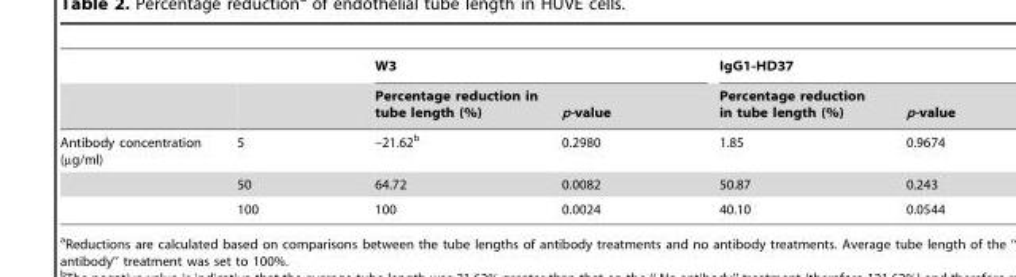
<table><thead><tr><td rowspan="2"></td><td rowspan="2"></td><td colspan="2">W3</td><td colspan="2">IgG1-HD37</td></tr><tr><td>Percentage reduction in tube length (%)</td><td>p-value</td><td>Percentage reduction in tube length (%)</td><td>p-value</td></tr></thead><tbody><tr><td rowspan="3">Antibody concentration (µg/ml)</td><td>5</td><td>–21.62<sup>b</sup></td><td>0.2980</td><td>1.85</td><td>0.9674</td></tr><tr><td>50</td><td>64.72</td><td>0.0082</td><td>50.87</td><td>0.243</td></tr><tr><td>100</td><td>100</td><td>0.0024</td><td>40.10</td><td>0.0544</td></tr></tbody></table>